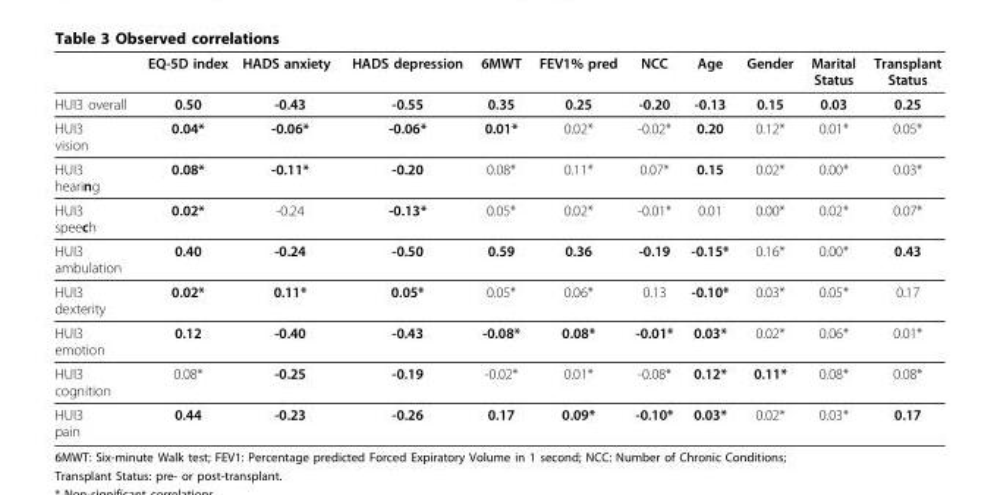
<table><thead><tr><td></td><td>EQ-5D index</td><td>HADS anxiety</td><td>HADS depression</td><td>6MWT</td><td>FEV1% pred</td><td>NCC</td><td>Age</td><td>Gender</td><td>Marital Status</td><td>Transplant Status</td></tr></thead><tbody><tr><td>HUI3 overall</td><td>0.50</td><td>-0.43</td><td>-0.55</td><td>0.35</td><td>0.25</td><td>-0.20</td><td>-0.13</td><td>0.15</td><td>0.03</td><td>0.25</td></tr><tr><td>HUI3 vision</td><td>0.04*</td><td>-0.06*</td><td>-0.06*</td><td>0.01*</td><td>0.02*</td><td>-0.02*</td><td>0.20</td><td>0.12*</td><td>0.01*</td><td>0.05*</td></tr><tr><td>HUI3 hearing</td><td>0.08*</td><td>-0.11*</td><td>-0.20</td><td>0.08*</td><td>0.11*</td><td>0.07*</td><td>0.15</td><td>0.02*</td><td>0.00*</td><td>0.03*</td></tr><tr><td>HUI3 speech</td><td>0.02*</td><td>-0.24</td><td>-0.13*</td><td>0.05*</td><td>0.02*</td><td>-0.01*</td><td>0.01</td><td>0.00*</td><td>0.02*</td><td>0.07*</td></tr><tr><td>HUI3 ambulation</td><td>0.40</td><td>-0.24</td><td>-0.50</td><td>0.59</td><td>0.36</td><td>-0.19</td><td>-0.15*</td><td>0.16*</td><td>0.00*</td><td>0.43</td></tr><tr><td>HUI3 dexterity</td><td>0.02*</td><td>0.11*</td><td>0.05*</td><td>0.05*</td><td>0.06*</td><td>0.13</td><td>-0.10*</td><td>0.03*</td><td>0.05*</td><td>0.17</td></tr><tr><td>HUI3 emotion</td><td>0.12</td><td>-0.40</td><td>-0.43</td><td>-0.08*</td><td>0.08*</td><td>-0.01*</td><td>0.03*</td><td>0.02*</td><td>0.06*</td><td>0.01*</td></tr><tr><td>HUI3 cognition</td><td>0.08*</td><td>-0.25</td><td>-0.19</td><td>-0.02*</td><td>0.01*</td><td>-0.08*</td><td>0.12*</td><td>0.11*</td><td>0.08*</td><td>0.08*</td></tr><tr><td>HUI3 pain</td><td>0.44</td><td>-0.23</td><td>-0.26</td><td>0.17</td><td>0.09*</td><td>-0.10*</td><td>0.03*</td><td>0.02*</td><td>0.03*</td><td>0.17</td></tr></tbody></table>